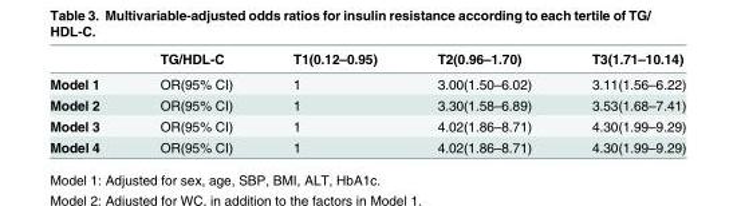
<table><thead><tr><td></td><td>TG/HDL-C</td><td>T1(0.12–0.95)</td><td>T2(0.96–1.70)</td><td>T3(1.71–10.14)</td></tr></thead><tbody><tr><td>Model 1</td><td>OR(95% CI)</td><td>1</td><td>3.00(1.50–6.02)</td><td>3.11(1.56–6.22)</td></tr><tr><td>Model 2</td><td>OR(95% CI)</td><td>1</td><td>3.30(1.58–6.89)</td><td>3.53(1.68–7.41)</td></tr><tr><td>Model 3</td><td>OR(95% CI)</td><td>1</td><td>4.02(1.86–8.71)</td><td>4.30(1.99–9.29)</td></tr><tr><td>Model 4</td><td>OR(95% CI)</td><td>1</td><td>4.02(1.86–8.71)</td><td>4.30(1.99–9.29)</td></tr></tbody></table>